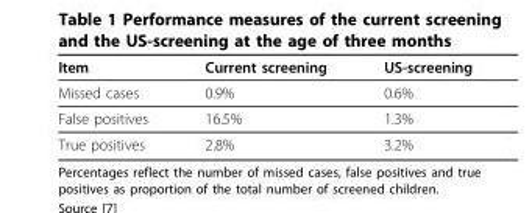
<table><thead><tr><td>Item</td><td>Current screening</td><td>US-screening</td></tr></thead><tbody><tr><td>Missed cases</td><td>0.9%</td><td>0.6%</td></tr><tr><td>False positives</td><td>16.5%</td><td>1.3%</td></tr><tr><td>True positives</td><td>2.8%</td><td>3.2%</td></tr></tbody></table>